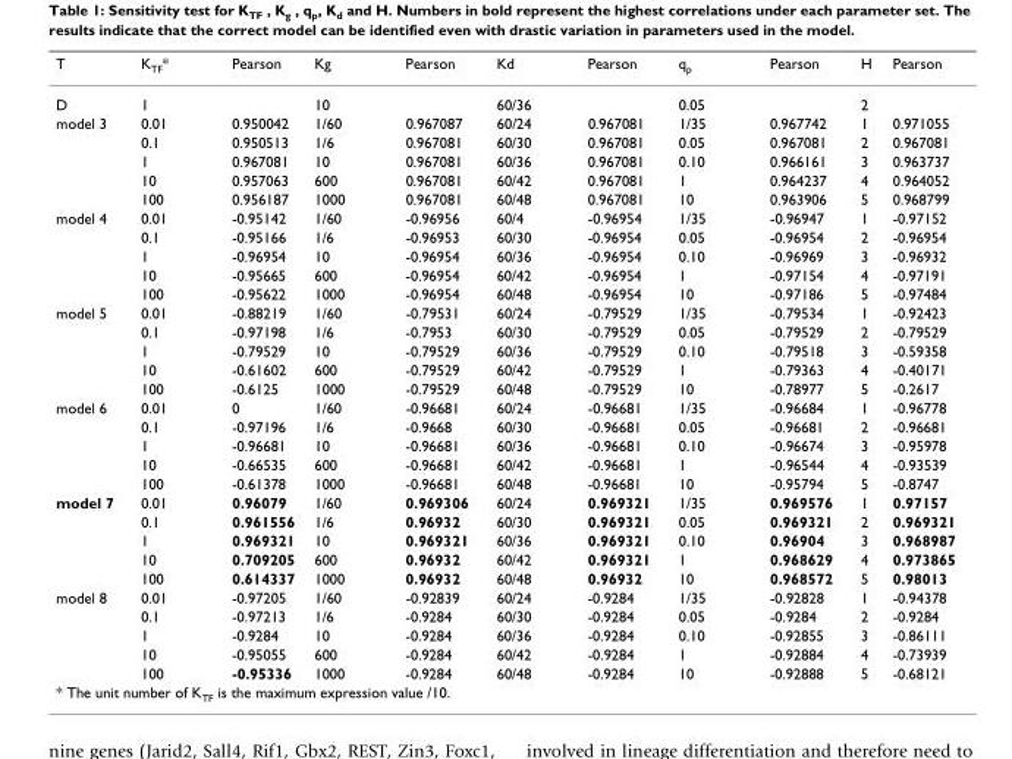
<table><thead><tr><td>T</td><td>K<sub>TF</sub>*</td><td>Pearson</td><td>Kg</td><td>Pearson</td><td>Kd</td><td>Pearson</td><td>q<sub>p</sub></td><td>Pearson</td><td>H</td><td>Pearson</td></tr></thead><tbody><tr><td>D</td><td>1</td><td></td><td>10</td><td></td><td>60/36</td><td></td><td>0.05</td><td></td><td>2</td><td></td></tr><tr><td rowspan="5">model 3</td><td>0.01</td><td>0.950042</td><td>1/60</td><td>0.967087</td><td>60/24</td><td>0.967081</td><td>1/35</td><td>0.967742</td><td>1</td><td>0.971055</td></tr><tr><td>0.1</td><td>0.950513</td><td>1/6</td><td>0.967081</td><td>60/30</td><td>0.967081</td><td>0.05</td><td>0.967081</td><td>2</td><td>0.967081</td></tr><tr><td>1</td><td>0.967081</td><td>10</td><td>0.967081</td><td>60/36</td><td>0.967081</td><td>0.10</td><td>0.966161</td><td>3</td><td>0.963737</td></tr><tr><td>10</td><td>0.957063</td><td>600</td><td>0.967081</td><td>60/42</td><td>0.967081</td><td>1</td><td>0.964237</td><td>4</td><td>0.964052</td></tr><tr><td>100</td><td>0.956187</td><td>1000</td><td>0.967081</td><td>60/48</td><td>0.967081</td><td>10</td><td>0.963906</td><td>5</td><td>0.968799</td></tr><tr><td rowspan="5">model 4</td><td>0.01</td><td>-0.95142</td><td>1/60</td><td>-0.96956</td><td>60/4</td><td>-0.96954</td><td>1/35</td><td>-0.96947</td><td>1</td><td>-0.97152</td></tr><tr><td>0.1</td><td>-0.95166</td><td>1/6</td><td>-0.96953</td><td>60/30</td><td>-0.96954</td><td>0.05</td><td>-0.96954</td><td>2</td><td>-0.96954</td></tr><tr><td>1</td><td>-0.96954</td><td>10</td><td>-0.96954</td><td>60/36</td><td>-0.96954</td><td>0.10</td><td>-0.96969</td><td>3</td><td>-0.96932</td></tr><tr><td>10</td><td>-0.95665</td><td>600</td><td>-0.96954</td><td>60/42</td><td>-0.96954</td><td>1</td><td>-0.97154</td><td>4</td><td>-0.97191</td></tr><tr><td>100</td><td>-0.95622</td><td>1000</td><td>-0.96954</td><td>60/48</td><td>-0.96954</td><td>10</td><td>-0.97186</td><td>5</td><td>-0.97484</td></tr><tr><td rowspan="5">model 5</td><td>0.01</td><td>-0.88219</td><td>1/60</td><td>-0.79531</td><td>60/24</td><td>-0.79529</td><td>1/35</td><td>-0.79534</td><td>1</td><td>-0.92423</td></tr><tr><td>0.1</td><td>-0.97198</td><td>1/6</td><td>-0.7953</td><td>60/30</td><td>-0.79529</td><td>0.05</td><td>-0.79529</td><td>2</td><td>-0.79529</td></tr><tr><td>1</td><td>-0.79529</td><td>10</td><td>-0.79529</td><td>60/36</td><td>-0.79529</td><td>0.10</td><td>-0.79518</td><td>3</td><td>-0.59358</td></tr><tr><td>10</td><td>-0.61602</td><td>600</td><td>-0.79529</td><td>60/42</td><td>-0.79529</td><td>1</td><td>-0.79363</td><td>4</td><td>-0.40171</td></tr><tr><td>100</td><td>-0.6125</td><td>1000</td><td>-0.79529</td><td>60/48</td><td>-0.79529</td><td>10</td><td>-0.78977</td><td>5</td><td>-0.2617</td></tr><tr><td rowspan="5">model 6</td><td>0.01</td><td>0</td><td>1/60</td><td>-0.96681</td><td>60/24</td><td>-0.96681</td><td>1/35</td><td>-0.96684</td><td>1</td><td>-0.96778</td></tr><tr><td>0.1</td><td>-0.97196</td><td>1/6</td><td>-0.9668</td><td>60/30</td><td>-0.96681</td><td>0.05</td><td>-0.96681</td><td>2</td><td>-0.96681</td></tr><tr><td>1</td><td>-0.96681</td><td>10</td><td>-0.96681</td><td>60/36</td><td>-0.96681</td><td>0.10</td><td>-0.96674</td><td>3</td><td>-0.95978</td></tr><tr><td>10</td><td>-0.66535</td><td>600</td><td>-0.96681</td><td>60/42</td><td>-0.96681</td><td>1</td><td>-0.96544</td><td>4</td><td>-0.93539</td></tr><tr><td>100</td><td>-0.61378</td><td>1000</td><td>-0.96681</td><td>60/48</td><td>-0.96681</td><td>10</td><td>-0.95794</td><td>5</td><td>-0.8747</td></tr><tr><td rowspan="5">model 7</td><td>0.01</td><td>0.96079</td><td>1/60</td><td>0.969306</td><td>60/24</td><td>0.969321</td><td>1/35</td><td>0.969576</td><td>1</td><td>0.97157</td></tr><tr><td>0.1</td><td>0.961556</td><td>1/6</td><td>0.96932</td><td>60/30</td><td>0.969321</td><td>0.05</td><td>0.969321</td><td>2</td><td>0.969321</td></tr><tr><td>1</td><td>0.969321</td><td>10</td><td>0.969321</td><td>60/36</td><td>0.969321</td><td>0.10</td><td>0.96904</td><td>3</td><td>0.968987</td></tr><tr><td>10</td><td>0.709205</td><td>600</td><td>0.96932</td><td>60/42</td><td>0.969321</td><td>1</td><td>0.968629</td><td>4</td><td>0.973865</td></tr><tr><td>100</td><td>0.614337</td><td>1000</td><td>0.96932</td><td>60/48</td><td>0.96932</td><td>10</td><td>0.968572</td><td>5</td><td>0.98013</td></tr><tr><td rowspan="5">model 8</td><td>0.01</td><td>-0.97205</td><td>1/60</td><td>-0.92839</td><td>60/24</td><td>-0.9284</td><td>1/35</td><td>-0.92828</td><td>1</td><td>-0.94378</td></tr><tr><td>0.1</td><td>-0.97213</td><td>1/6</td><td>-0.9284</td><td>60/30</td><td>-0.9284</td><td>0.05</td><td>-0.9284</td><td>2</td><td>-0.9284</td></tr><tr><td>1</td><td>-0.9284</td><td>10</td><td>-0.9284</td><td>60/36</td><td>-0.9284</td><td>0.10</td><td>-0.92855</td><td>3</td><td>-0.86111</td></tr><tr><td>10</td><td>-0.95055</td><td>600</td><td>-0.9284</td><td>60/42</td><td>-0.9284</td><td>1</td><td>-0.92884</td><td>4</td><td>-0.73939</td></tr><tr><td>100</td><td>-0.95336</td><td>1000</td><td>-0.9284</td><td>60/48</td><td>-0.9284</td><td>10</td><td>-0.92888</td><td>5</td><td>-0.68121</td></tr><tr><td colspan="11">* The unit number of K<sub>TF</sub> is the maximum expression value /10.</td></tr></tbody></table>